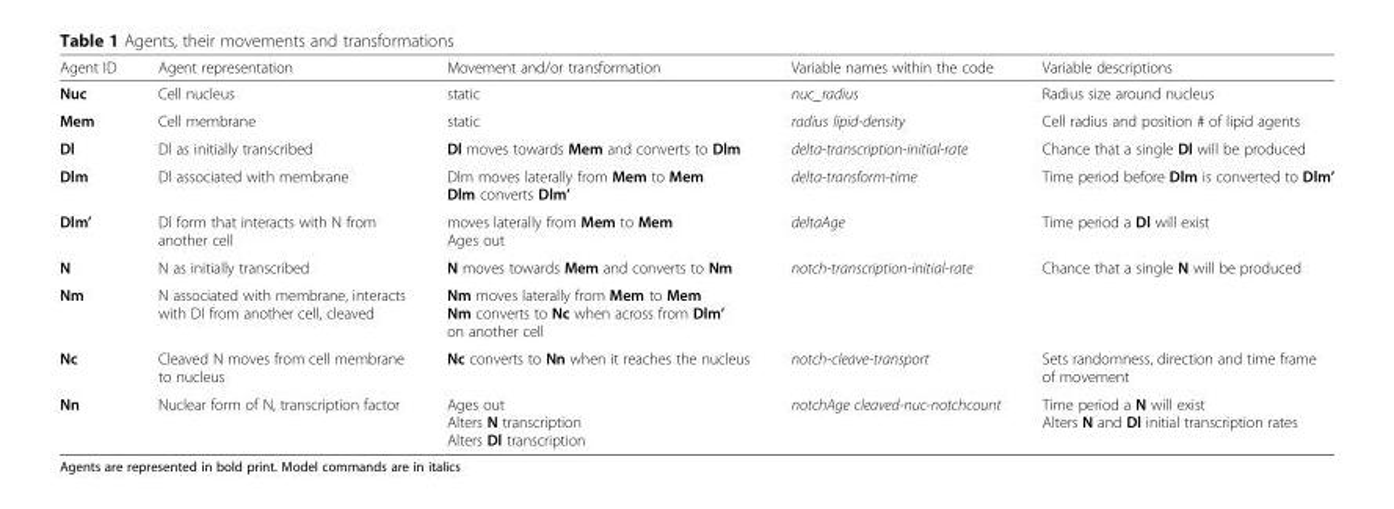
<table><thead><tr><td>Agent ID</td><td>Agent representation</td><td>Movement and/or transformation</td><td>Variable names within the code</td><td>Variable descriptions</td></tr></thead><tbody><tr><td>Nuc</td><td>Cell nucleus</td><td>static</td><td>nuc_radius</td><td>Radius size around nucleus</td></tr><tr><td>Mem</td><td>Cell membrane</td><td>static</td><td>radius lipid-density</td><td>Cell radius and position # of lipid agents</td></tr><tr><td>Dl</td><td>Dl as initially transcribed</td><td>Dl moves towards Mem and converts to Dlm</td><td>delta-transcription-initial-rate</td><td>Chance that a single Dl will be produced</td></tr><tr><td>Dlm</td><td>Dl associated with membrane</td><td>Dlm moves laterally from Mem to Mem Dlm converts Dlm’</td><td>delta-transform-time</td><td>Time period before Dlm is converted to Dlm’</td></tr><tr><td>Dlm’</td><td>Dl form that interacts with N from another cell</td><td>moves laterally from Mem to Mem Ages out</td><td>deltaAge</td><td>Time period a Dl will exist</td></tr><tr><td>N</td><td>N as initially transcribed</td><td>N moves towards Mem and converts to Nm</td><td>notch-transcription-initial-rate</td><td>Chance that a single N will be produced</td></tr><tr><td>Nm</td><td>N associated with membrane, interacts with Dl from another cell, cleaved</td><td>Nm moves laterally from Mem to Mem Nm converts to Nc when across from Dlm’ on another cell</td><td></td><td></td></tr><tr><td>Nc</td><td>Cleaved N moves from cell membrane to nucleus</td><td>Nc converts to Nn when it reaches the nucleus</td><td>notch-cleave-transport</td><td>Sets randomness, direction and time frame of movement</td></tr><tr><td>Nn</td><td>Nuclear form of N, transcription factor</td><td>Ages out Alters N transcription Alters Dl transcription</td><td>notchAge cleaved-nuc-notchcount</td><td>Time period a N will exist Alters N and Dl initial transcription rates</td></tr></tbody></table>